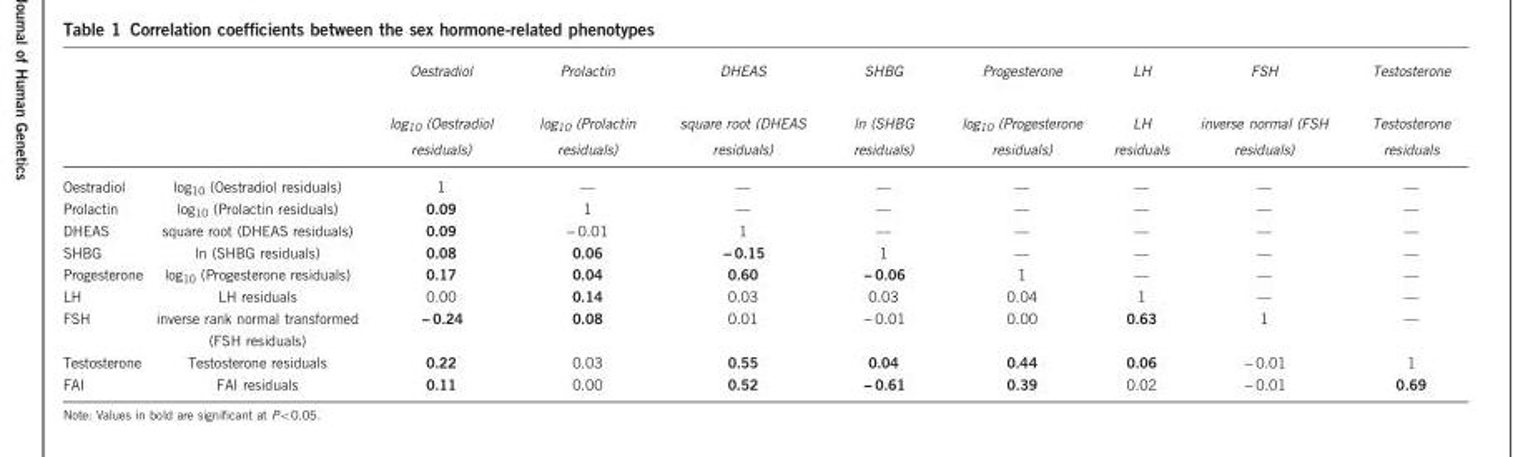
<table><thead><tr><td rowspan="2"></td><td rowspan="2"></td><td rowspan="2">Oestradiol log10 (Oestradiol residuals)</td><td rowspan="2">Prolactin log10 (Prolactin residuals)</td><td rowspan="2">DHEAS square root (DHEAS residuals)</td><td rowspan="2">SHBG ln (SHBG residuals)</td><td rowspan="2">Progesterone log10 (Progesterone residuals)</td><td rowspan="2">LH LH residuals</td><td rowspan="2">FSH inverse normal (FSH residuals)</td><td rowspan="2">Testosterone Testosterone residuals</td></tr><tr></tr></thead><tbody><tr><td>Oestradiol</td><td>log10 (Oestradiol residuals)</td><td>1</td><td>—</td><td>—</td><td>—</td><td>—</td><td>—</td><td>—</td><td>—</td></tr><tr><td>Prolactin</td><td>log10 (Prolactin residuals)</td><td>0.09</td><td>1</td><td>—</td><td>—</td><td>—</td><td>—</td><td>—</td><td>—</td></tr><tr><td>DHEAS</td><td>square root (DHEAS residuals)</td><td>0.09</td><td>− 0.01</td><td>1</td><td>—</td><td>—</td><td>—</td><td>—</td><td>—</td></tr><tr><td>SHBG</td><td>ln (SHBG residuals)</td><td>0.08</td><td>0.06</td><td>− 0.15</td><td>1</td><td>—</td><td>—</td><td>—</td><td>—</td></tr><tr><td>Progesterone</td><td>log10 (Progesterone residuals)</td><td>0.17</td><td>0.04</td><td>0.60</td><td>− 0.06</td><td>1</td><td>—</td><td>—</td><td>—</td></tr><tr><td>LH</td><td>LH residuals</td><td>0.00</td><td>0.14</td><td>0.03</td><td>0.03</td><td>0.04</td><td>1</td><td>—</td><td>—</td></tr><tr><td>FSH</td><td>inverse rank normal transformed (FSH residuals)</td><td>− 0.24</td><td>0.08</td><td>0.01</td><td>− 0.01</td><td>0.00</td><td>0.63</td><td>1</td><td>—</td></tr><tr><td>Testosterone</td><td>Testosterone residuals</td><td>0.22</td><td>0.03</td><td>0.55</td><td>0.04</td><td>0.44</td><td>0.06</td><td>− 0.01</td><td>1</td></tr><tr><td>FAI</td><td>FAI residuals</td><td>0.11</td><td>0.00</td><td>0.52</td><td>− 0.61</td><td>0.39</td><td>0.02</td><td>− 0.01</td><td>0.69</td></tr></tbody></table>